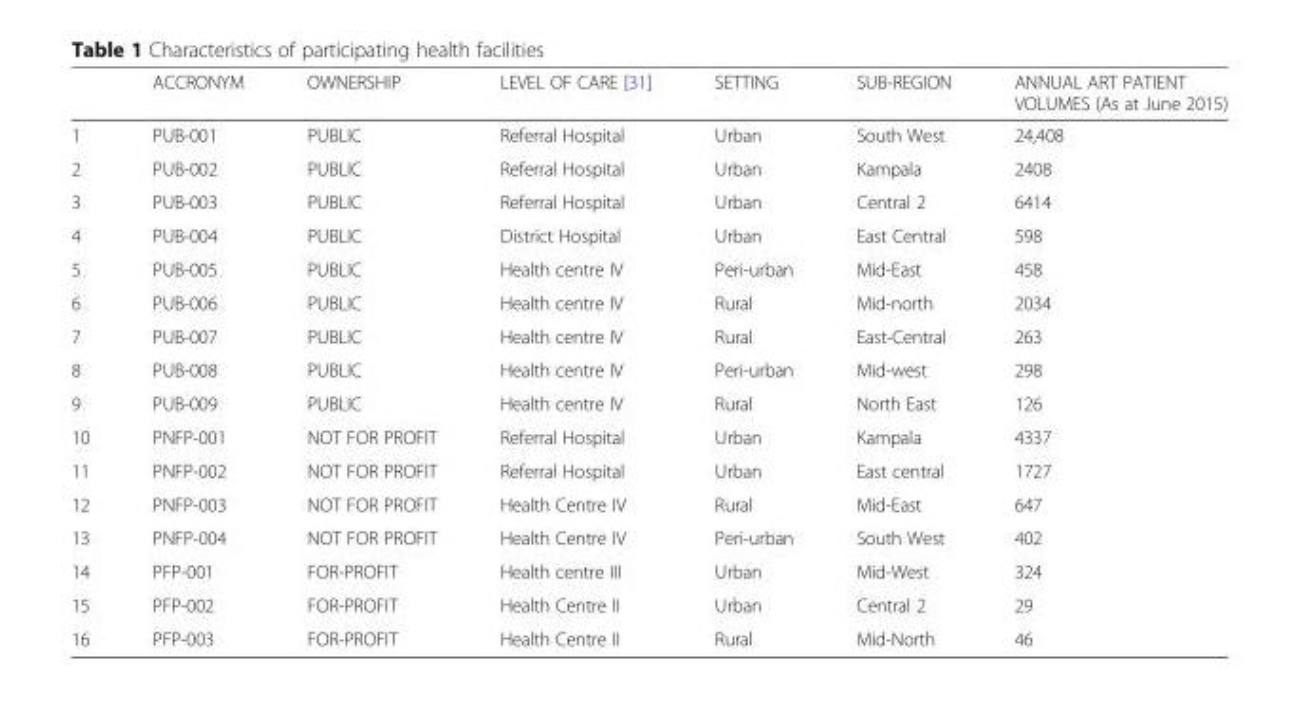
<table><thead><tr><td></td><td>ACCRONYM</td><td>OWNERSHIP</td><td>LEVEL OF CARE [31]</td><td>SETTING</td><td>SUB-REGION</td><td>ANNUAL ART PATIENT VOLUMES (As at June 2015)</td></tr></thead><tbody><tr><td>1</td><td>PUB-001</td><td>PUBLIC</td><td>Referral Hospital</td><td>Urban</td><td>South West</td><td>24,408</td></tr><tr><td>2</td><td>PUB-002</td><td>PUBLIC</td><td>Referral Hospital</td><td>Urban</td><td>Kampala</td><td>2408</td></tr><tr><td>3</td><td>PUB-003</td><td>PUBLIC</td><td>Referral Hospital</td><td>Urban</td><td>Central 2</td><td>6414</td></tr><tr><td>4</td><td>PUB-004</td><td>PUBLIC</td><td>District Hospital</td><td>Urban</td><td>East Central</td><td>598</td></tr><tr><td>5</td><td>PUB-005</td><td>PUBLIC</td><td>Health centre IV</td><td>Peri-urban</td><td>Mid-East</td><td>458</td></tr><tr><td>6</td><td>PUB-006</td><td>PUBLIC</td><td>Health centre IV</td><td>Rural</td><td>Mid-north</td><td>2034</td></tr><tr><td>7</td><td>PUB-007</td><td>PUBLIC</td><td>Health centre IV</td><td>Rural</td><td>East-Central</td><td>263</td></tr><tr><td>8</td><td>PUB-008</td><td>PUBLIC</td><td>Health centre IV</td><td>Peri-urban</td><td>Mid-west</td><td>298</td></tr><tr><td>9</td><td>PUB-009</td><td>PUBLIC</td><td>Health centre IV</td><td>Rural</td><td>North East</td><td>126</td></tr><tr><td>10</td><td>PNFP-001</td><td>NOT FOR PROFIT</td><td>Referral Hospital</td><td>Urban</td><td>Kampala</td><td>4337</td></tr><tr><td>11</td><td>PNFP-002</td><td>NOT FOR PROFIT</td><td>Referral Hospital</td><td>Urban</td><td>East central</td><td>1727</td></tr><tr><td>12</td><td>PNFP-003</td><td>NOT FOR PROFIT</td><td>Health Centre IV</td><td>Rural</td><td>Mid-East</td><td>647</td></tr><tr><td>13</td><td>PNFP-004</td><td>NOT FOR PROFIT</td><td>Health Centre IV</td><td>Peri-urban</td><td>South West</td><td>402</td></tr><tr><td>14</td><td>PFP-001</td><td>FOR-PROFIT</td><td>Health centre III</td><td>Urban</td><td>Mid-West</td><td>324</td></tr><tr><td>15</td><td>PFP-002</td><td>FOR-PROFIT</td><td>Health Centre II</td><td>Urban</td><td>Central 2</td><td>29</td></tr><tr><td>16</td><td>PFP-003</td><td>FOR-PROFIT</td><td>Health Centre II</td><td>Rural</td><td>Mid-North</td><td>46</td></tr></tbody></table>